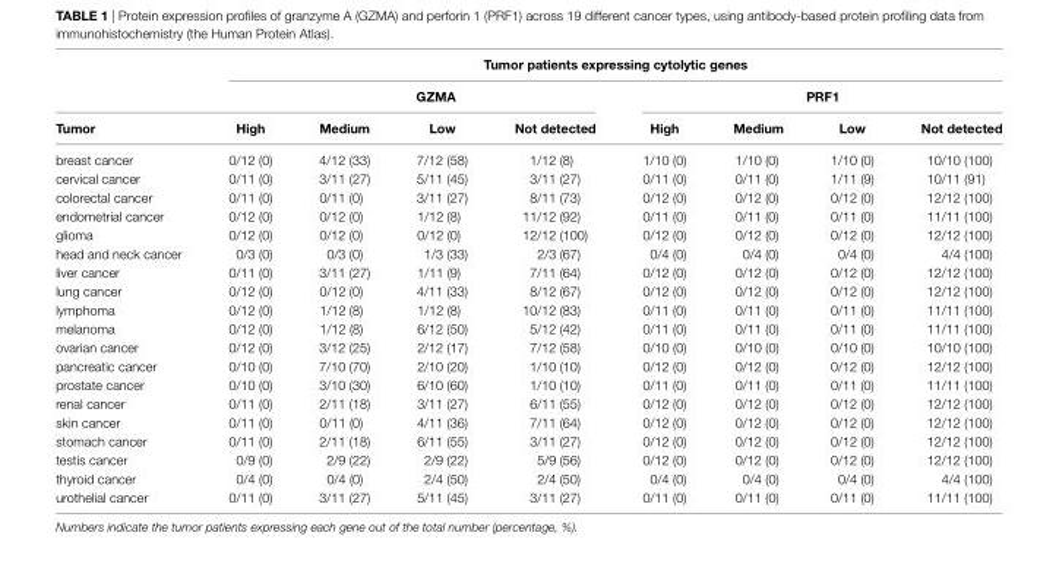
<table><thead><tr><td rowspan="3">Tumor</td><td colspan="8">Tumor patients expressing cytolytic genes</td></tr><tr><td colspan="4">gZMa</td><td colspan="4">PrF1</td></tr><tr><td>high</td><td>Medium</td><td>low</td><td>not detected</td><td>high</td><td>Medium</td><td>low</td><td>not detected</td></tr></thead><tbody><tr><td>breast cancer</td><td>0/12 (0)</td><td>4/12 (33)</td><td>7/12 (58)</td><td>1/12 (8)</td><td>1/10 (0)</td><td>1/10 (0)</td><td>1/10 (0)</td><td>10/10 (100)</td></tr><tr><td>cervical cancer</td><td>0/11 (0)</td><td>3/11 (27)</td><td>5/11 (45)</td><td>3/11 (27)</td><td>0/11 (0)</td><td>0/11 (0)</td><td>1/11 (9)</td><td>10/11 (91)</td></tr><tr><td>colorectal cancer</td><td>0/11 (0)</td><td>0/11 (0)</td><td>3/11 (27)</td><td>8/11 (73)</td><td>0/12 (0)</td><td>0/12 (0)</td><td>0/12 (0)</td><td>12/12 (100)</td></tr><tr><td>endometrial cancer</td><td>0/12 (0)</td><td>0/12 (0)</td><td>1/12 (8)</td><td>11/12 (92)</td><td>0/11 (0)</td><td>0/11 (0)</td><td>0/11 (0)</td><td>11/11 (100)</td></tr><tr><td>glioma</td><td>0/12 (0)</td><td>0/12 (0)</td><td>0/12 (0)</td><td>12/12 (100)</td><td>0/12 (0)</td><td>0/12 (0)</td><td>0/12 (0)</td><td>12/12 (100)</td></tr><tr><td>head and neck cancer</td><td>0/3 (0)</td><td>0/3 (0)</td><td>1/3 (33)</td><td>2/3 (67)</td><td>0/4 (0)</td><td>0/4 (0)</td><td>0/4 (0)</td><td>4/4 (100)</td></tr><tr><td>liver cancer</td><td>0/11 (0)</td><td>3/11 (27)</td><td>1/11 (9)</td><td>7/11 (64)</td><td>0/12 (0)</td><td>0/12 (0)</td><td>0/12 (0)</td><td>12/12 (100)</td></tr><tr><td>lung cancer</td><td>0/12 (0)</td><td>0/12 (0)</td><td>4/11 (33)</td><td>8/12 (67)</td><td>0/12 (0)</td><td>0/12 (0)</td><td>0/12 (0)</td><td>12/12 (100)</td></tr><tr><td>lymphoma</td><td>0/12 (0)</td><td>1/12 (8)</td><td>1/12 (8)</td><td>10/12 (83)</td><td>0/11 (0)</td><td>0/11 (0)</td><td>0/11 (0)</td><td>11/11 (100)</td></tr><tr><td>melanoma</td><td>0/12 (0)</td><td>1/12 (8)</td><td>6/12 (50)</td><td>5/12 (42)</td><td>0/11 (0)</td><td>0/11 (0)</td><td>0/11 (0)</td><td>11/11 (100)</td></tr><tr><td>ovarian cancer</td><td>0/12 (0)</td><td>3/12 (25)</td><td>2/12 (17)</td><td>7/12 (58)</td><td>0/10 (0)</td><td>0/10 (0)</td><td>0/10 (0)</td><td>10/10 (100)</td></tr><tr><td>pancreatic cancer</td><td>0/10 (0)</td><td>7/10 (70)</td><td>2/10 (20)</td><td>1/10 (10)</td><td>0/12 (0)</td><td>0/12 (0)</td><td>0/12 (0)</td><td>12/12 (100)</td></tr><tr><td>prostate cancer</td><td>0/10 (0)</td><td>3/10 (30)</td><td>6/10 (60)</td><td>1/10 (10)</td><td>0/11 (0)</td><td>0/11 (0)</td><td>0/11 (0)</td><td>11/11 (100)</td></tr><tr><td>renal cancer</td><td>0/11 (0)</td><td>2/11 (18)</td><td>3/11 (27)</td><td>6/11 (55)</td><td>0/12 (0)</td><td>0/12 (0)</td><td>0/12 (0)</td><td>12/12 (100)</td></tr><tr><td>skin cancer</td><td>0/11 (0)</td><td>0/11 (0)</td><td>4/11 (36)</td><td>7/11 (64)</td><td>0/12 (0)</td><td>0/12 (0)</td><td>0/12 (0)</td><td>12/12 (100)</td></tr><tr><td>stomach cancer</td><td>0/11 (0)</td><td>2/11 (18)</td><td>6/11 (55)</td><td>3/11 (27)</td><td>0/12 (0)</td><td>0/12 (0)</td><td>0/12 (0)</td><td>12/12 (100)</td></tr><tr><td>testis cancer</td><td>0/9 (0)</td><td>2/9 (22)</td><td>2/9 (22)</td><td>5/9 (56)</td><td>0/12 (0)</td><td>0/12 (0)</td><td>0/12 (0)</td><td>12/12 (100)</td></tr><tr><td>thyroid cancer</td><td>0/4 (0)</td><td>0/4 (0)</td><td>2/4 (50)</td><td>2/4 (50)</td><td>0/4 (0)</td><td>0/4 (0)</td><td>0/4 (0)</td><td>4/4 (100)</td></tr><tr><td>urothelial cancer</td><td>0/11 (0)</td><td>3/11 (27)</td><td>5/11 (45)</td><td>3/11 (27)</td><td>0/11 (0)</td><td>0/11 (0)</td><td>0/11 (0)</td><td>11/11 (100)</td></tr></tbody></table>